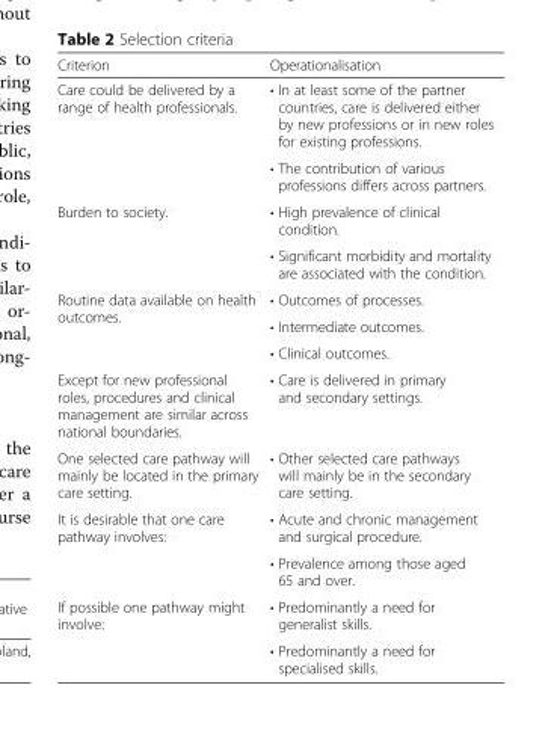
<table><thead><tr><td>Criterion</td><td>Operationalisation</td></tr></thead><tbody><tr><td rowspan="2">Care could be delivered by a range of health professionals.</td><td>• In at least some of the partner countries, care is delivered either by new professions or in new roles for existing professions.</td></tr><tr><td>• The contribution of various professions differs across partners.</td></tr><tr><td rowspan="2">Burden to society.</td><td>• High prevalence of clinical condition.</td></tr><tr><td>• Significant morbidity and mortality are associated with the condition.</td></tr><tr><td rowspan="3">Routine data available on health outcomes.</td><td>• Outcomes of processes.</td></tr><tr><td>• Intermediate outcomes.</td></tr><tr><td>• Clinical outcomes.</td></tr><tr><td>Except for new professional roles, procedures and clinical management are similar across national boundaries.</td><td>• Care is delivered in primary and secondary settings.</td></tr><tr><td>One selected care pathway will mainly be located in the primary care setting.</td><td>• Other selected care pathways will mainly be in the secondary care setting.</td></tr><tr><td rowspan="2">It is desirable that one care pathway involves:</td><td>• Acute and chronic management and surgical procedure.</td></tr><tr><td>• Prevalence among those aged 65 and over.</td></tr><tr><td rowspan="2">If possible one pathway might involve:</td><td>• Predominantly a need for generalist skills.</td></tr><tr><td>• Predominantly a need for specialised skills.</td></tr></tbody></table>